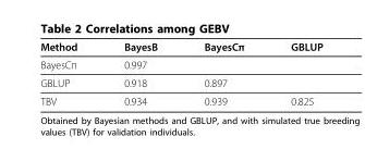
<table><thead><tr><td>Method</td><td>BayesB</td><td>BayesCπ</td><td>GBLUP</td></tr></thead><tbody><tr><td>BayesCπ</td><td>0.997</td><td></td><td></td></tr><tr><td>GBLUP</td><td>0.918</td><td>0.897</td><td></td></tr><tr><td>TBV</td><td>0.934</td><td>0.939</td><td>0.825</td></tr></tbody></table>